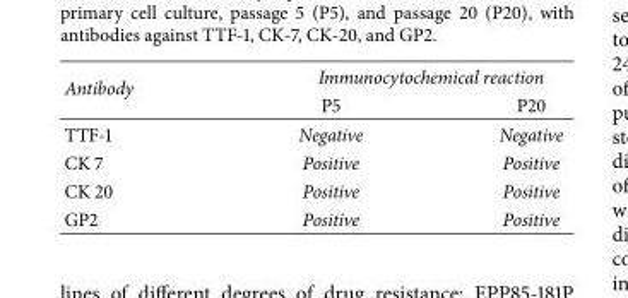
<table><thead><tr><td rowspan="2">Antibody</td><td colspan="2">Immunocytochemical reaction</td></tr><tr><td>P5</td><td>P20</td></tr></thead><tbody><tr><td>TTF-1</td><td>Negative</td><td>Negative</td></tr><tr><td>CK 7</td><td>Positive</td><td>Positive</td></tr><tr><td>CK 20</td><td>Positive</td><td>Positive</td></tr><tr><td>GP2</td><td>Positive</td><td>Positive</td></tr></tbody></table>